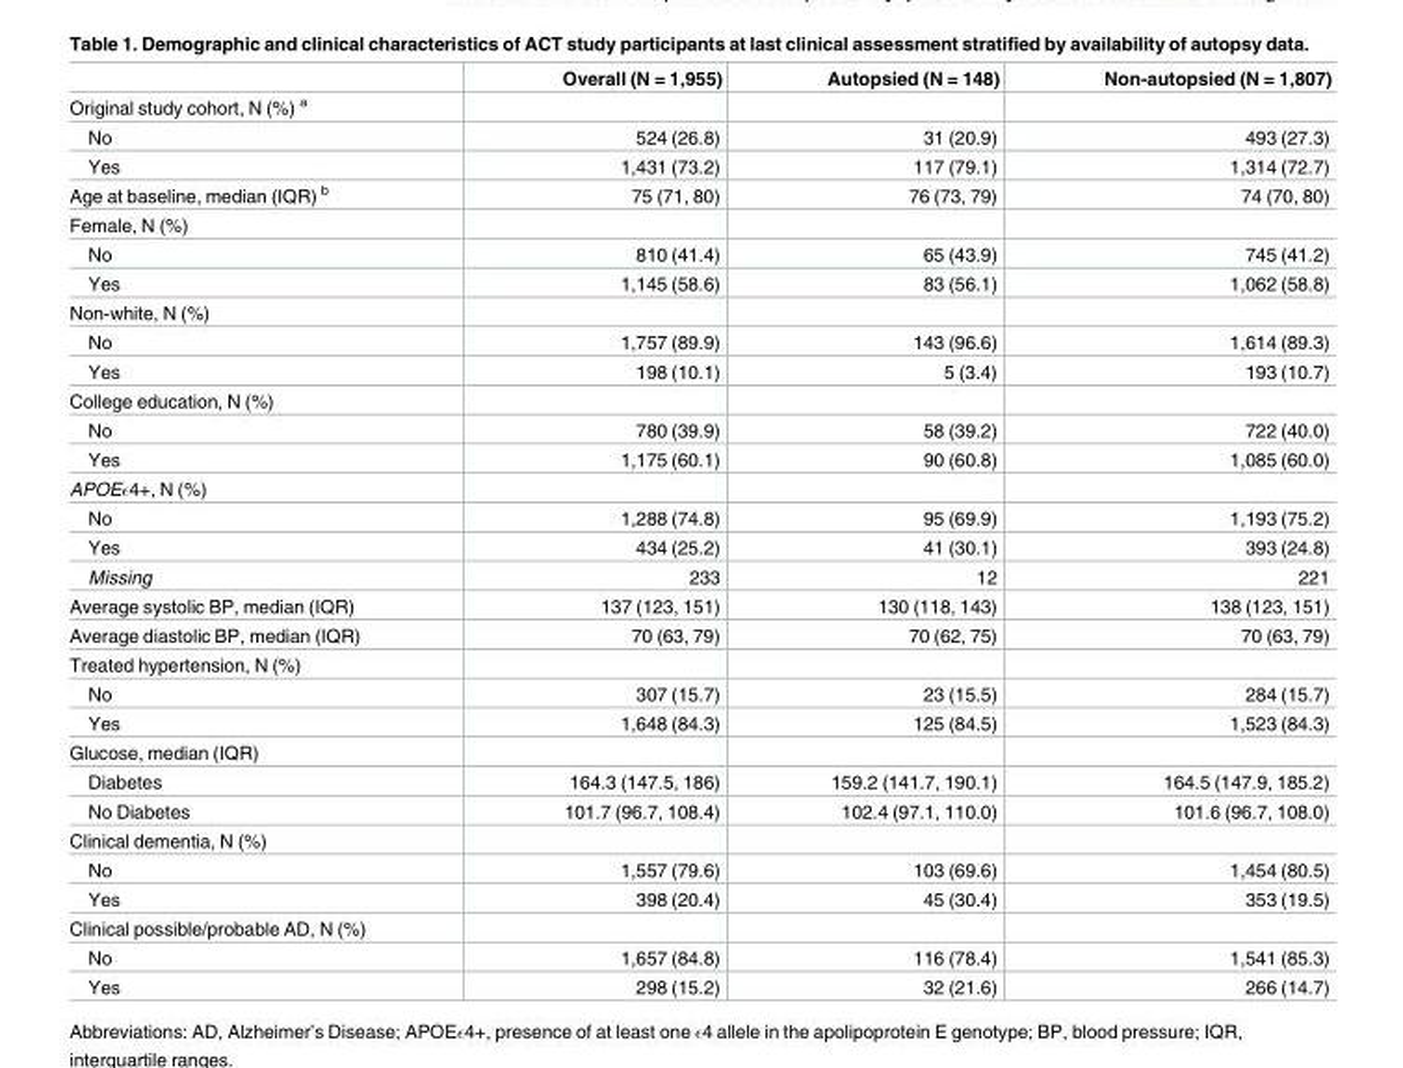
<table><thead><tr><td></td><td>Overall (N = 1,955)</td><td>Autopsied (N = 148)</td><td>Non-autopsied (N = 1,807)</td></tr></thead><tbody><tr><td colspan="4">Original study cohort, N (%) <sup>a</sup></td></tr><tr><td>No</td><td>524 (26.8)</td><td>31 (20.9)</td><td>493 (27.3)</td></tr><tr><td>Yes</td><td>1,431 (73.2)</td><td>117 (79.1)</td><td>1,314 (72.7)</td></tr><tr><td>Age at baseline, median (IQR) <sup>b</sup></td><td>75 (71, 80)</td><td>76 (73, 79)</td><td>74 (70, 80)</td></tr><tr><td colspan="4">Female, N (%)</td></tr><tr><td>No</td><td>810 (41.4)</td><td>65 (43.9)</td><td>745 (41.2)</td></tr><tr><td>Yes</td><td>1,145 (58.6)</td><td>83 (56.1)</td><td>1,062 (58.8)</td></tr><tr><td colspan="4">Non-white, N (%)</td></tr><tr><td>No</td><td>1,757 (89.9)</td><td>143 (96.6)</td><td>1,614 (89.3)</td></tr><tr><td>Yes</td><td>198 (10.1)</td><td>5 (3.4)</td><td>193 (10.7)</td></tr><tr><td colspan="4">College education, N (%)</td></tr><tr><td>No</td><td>780 (39.9)</td><td>58 (39.2)</td><td>722 (40.0)</td></tr><tr><td>Yes</td><td>1,175 (60.1)</td><td>90 (60.8)</td><td>1,085 (60.0)</td></tr><tr><td colspan="4">APOEϵ4+, N (%)</td></tr><tr><td>No</td><td>1,288 (74.8)</td><td>95 (69.9)</td><td>1,193 (75.2)</td></tr><tr><td>Yes</td><td>434 (25.2)</td><td>41 (30.1)</td><td>393 (24.8)</td></tr><tr><td>Missing</td><td>233</td><td>12</td><td>221</td></tr><tr><td>Average systolic BP, median (IQR)</td><td>137 (123, 151)</td><td>130 (118, 143)</td><td>138 (123, 151)</td></tr><tr><td>Average diastolic BP, median (IQR)</td><td>70 (63, 79)</td><td>70 (62, 75)</td><td>70 (63, 79)</td></tr><tr><td colspan="4">Treated hypertension, N (%)</td></tr><tr><td>No</td><td>307 (15.7)</td><td>23 (15.5)</td><td>284 (15.7)</td></tr><tr><td>Yes</td><td>1,648 (84.3)</td><td>125 (84.5)</td><td>1,523 (84.3)</td></tr><tr><td colspan="4">Glucose, median (IQR)</td></tr><tr><td>Diabetes</td><td>164.3 (147.5, 186)</td><td>159.2 (141.7, 190.1)</td><td>164.5 (147.9, 185.2)</td></tr><tr><td>No Diabetes</td><td>101.7 (96.7, 108.4)</td><td>102.4 (97.1, 110.0)</td><td>101.6 (96.7, 108.0)</td></tr><tr><td colspan="4">Clinical dementia, N (%)</td></tr><tr><td>No</td><td>1,557 (79.6)</td><td>103 (69.6)</td><td>1,454 (80.5)</td></tr><tr><td>Yes</td><td>398 (20.4)</td><td>45 (30.4)</td><td>353 (19.5)</td></tr><tr><td colspan="4">Clinical possible/probable AD, N (%)</td></tr><tr><td>No</td><td>1,657 (84.8)</td><td>116 (78.4)</td><td>1,541 (85.3)</td></tr><tr><td>Yes</td><td>298 (15.2)</td><td>32 (21.6)</td><td>266 (14.7)</td></tr></tbody></table>